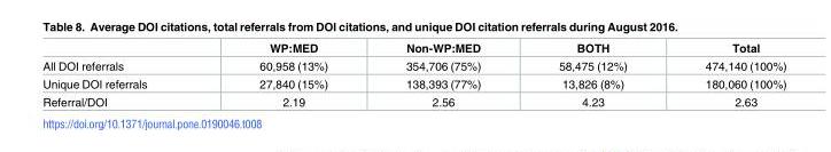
<table><thead><tr><td></td><td>WP:MED</td><td>Non-WP:MED</td><td>BOTH</td><td>Total</td></tr></thead><tbody><tr><td>All DOI referrals</td><td>60,958 (13%)</td><td>354,706 (75%)</td><td>58,475 (12%)</td><td>474,140 (100%)</td></tr><tr><td>Unique DOI referrals</td><td>27,840 (15%)</td><td>138,393 (77%)</td><td>13,826 (8%)</td><td>180,060 (100%)</td></tr><tr><td>Referral/DOI</td><td>2.19</td><td>2.56</td><td>4.23</td><td>2.63</td></tr></tbody></table>